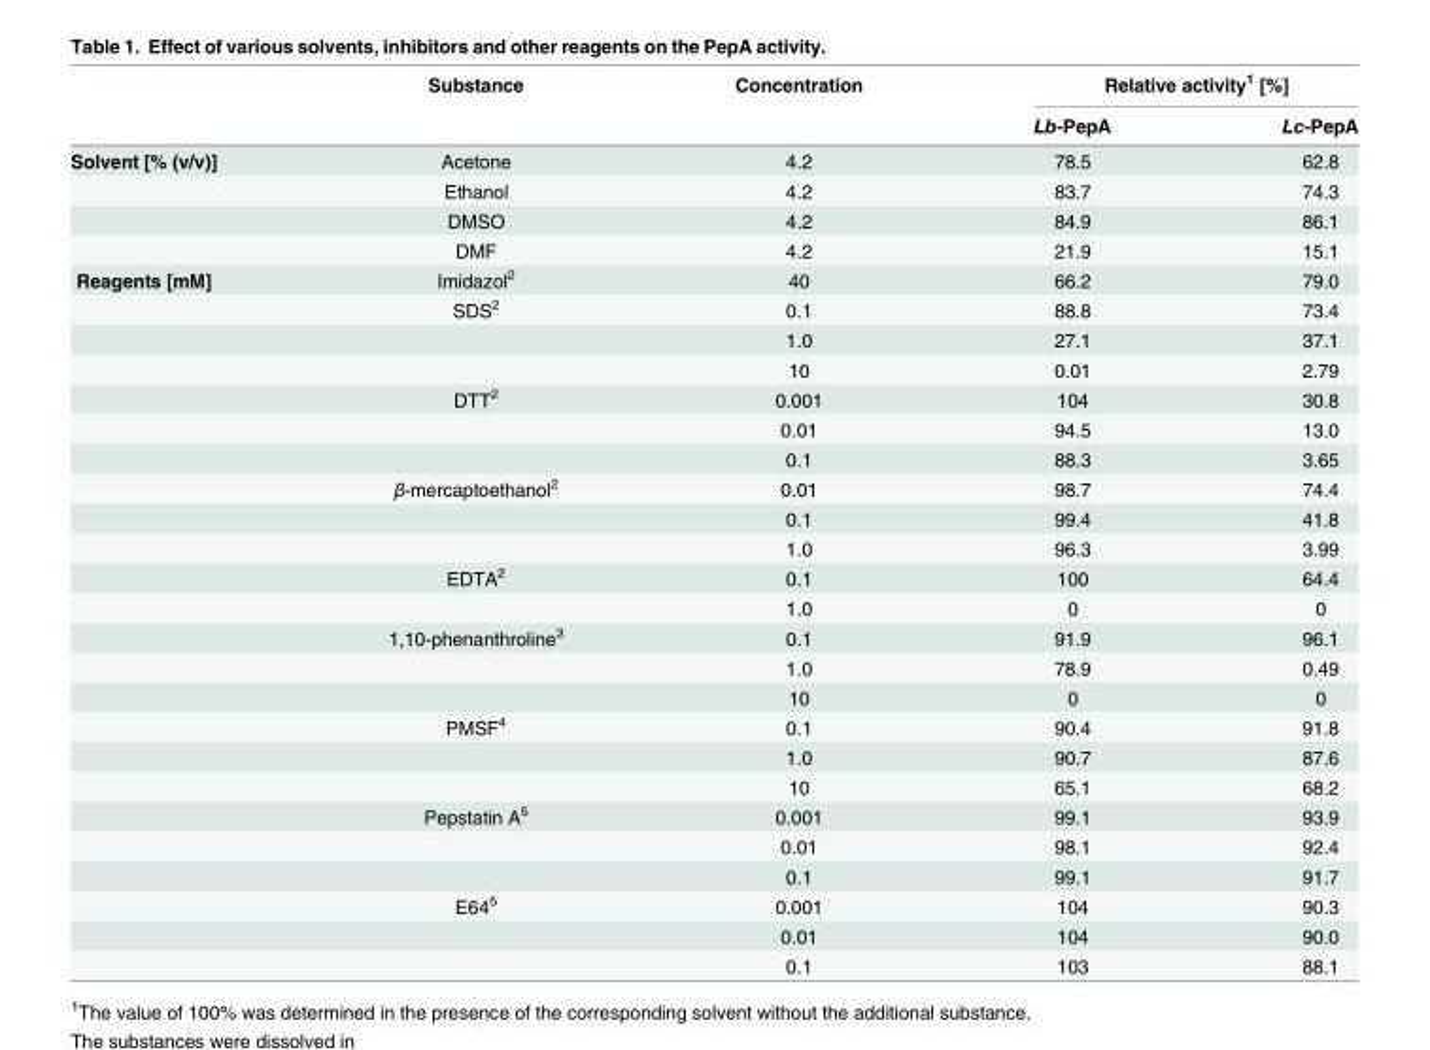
<table><thead><tr><td rowspan="2"></td><td rowspan="2">Substance</td><td rowspan="2">Concentration</td><td colspan="2">Relative activity<sup>1</sup> [%]</td></tr><tr><td>Lb-PepA</td><td>Lc-PepA</td></tr></thead><tbody><tr><td rowspan="4">Solvent [% (v/v)]</td><td>Acetone</td><td>4.2</td><td>78.5</td><td>62.8</td></tr><tr><td>Ethanol</td><td>4.2</td><td>83.7</td><td>74.3</td></tr><tr><td>DMSO</td><td>4.2</td><td>84.9</td><td>86.1</td></tr><tr><td>DMF</td><td>4.2</td><td>21.9</td><td>15.1</td></tr><tr><td rowspan="24">Reagents [mM]</td><td>Imidazol<sup>2</sup></td><td>40</td><td>66.2</td><td>79.0</td></tr><tr><td>SDS<sup>2</sup></td><td>0.1</td><td>88.8</td><td>73.4</td></tr><tr><td></td><td>1.0</td><td>27.1</td><td>37.1</td></tr><tr><td></td><td>10</td><td>0.01</td><td>2.79</td></tr><tr><td>DTT<sup>2</sup></td><td>0.001</td><td>104</td><td>30.8</td></tr><tr><td></td><td>0.01</td><td>94.5</td><td>13.0</td></tr><tr><td></td><td>0.1</td><td>88.3</td><td>3.65</td></tr><tr><td>β-mercaptoethanol<sup>2</sup></td><td>0.01</td><td>98.7</td><td>74.4</td></tr><tr><td></td><td>0.1</td><td>99.4</td><td>41.8</td></tr><tr><td></td><td>1.0</td><td>96.3</td><td>3.99</td></tr><tr><td>EDTA<sup>2</sup></td><td>0.1</td><td>100</td><td>64.4</td></tr><tr><td></td><td>1.0</td><td>0</td><td>0</td></tr><tr><td>1,10-phenanthroline<sup>3</sup></td><td>0.1</td><td>91.9</td><td>96.1</td></tr><tr><td></td><td>1.0</td><td>78.9</td><td>0.49</td></tr><tr><td></td><td>10</td><td>0</td><td>0</td></tr><tr><td>PMSF<sup>4</sup></td><td>0.1</td><td>90.4</td><td>91.8</td></tr><tr><td></td><td>1.0</td><td>90.7</td><td>87.6</td></tr><tr><td></td><td>10</td><td>65.1</td><td>68.2</td></tr><tr><td>Pepstatin A<sup>5</sup></td><td>0.001</td><td>99.1</td><td>93.9</td></tr><tr><td></td><td>0.01</td><td>98.1</td><td>92.4</td></tr><tr><td></td><td>0.1</td><td>99.1</td><td>91.7</td></tr><tr><td>E64<sup>5</sup></td><td>0.001</td><td>104</td><td>90.3</td></tr><tr><td></td><td>0.01</td><td>104</td><td>90.0</td></tr><tr><td></td><td>0.1</td><td>103</td><td>88.1</td></tr></tbody></table>